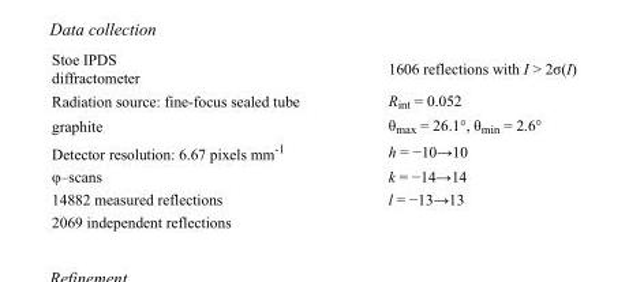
<table><tbody><tr><td>Stoe IPDS diffractometer</td><td>1606 reflections with I &gt; 2σ(I)</td></tr><tr><td>Radiation source: fine-focus sealed tube</td><td>R<sub>int</sub> = 0.052</td></tr><tr><td>graphite</td><td>θ<sub>max</sub> = 26.1°, θ<sub>min</sub> = 2.6°</td></tr><tr><td>Detector resolution: 6.67 pixels mm<sup>-1</sup></td><td>h = −10→10</td></tr><tr><td>φ–scans</td><td>k = −14→14</td></tr><tr><td>14882 measured reflections</td><td>l = −13→13</td></tr><tr><td>2069 independent reflections</td><td></td></tr></tbody></table>